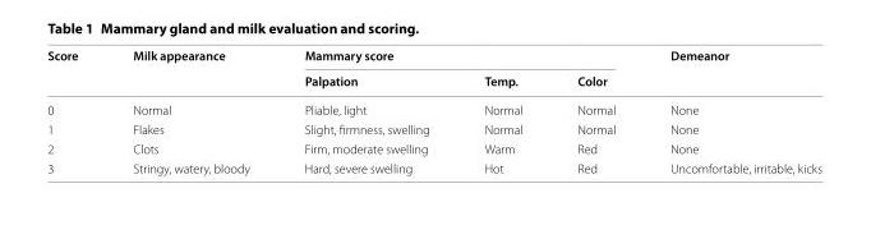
<table><thead><tr><td rowspan="2">Score</td><td rowspan="2">Milk appearance</td><td colspan="3">Mammary score</td><td rowspan="2">Demeanor</td></tr><tr><td>Palpation</td><td>Temp.</td><td>Color</td></tr></thead><tbody><tr><td>0</td><td>Normal</td><td>Pliable, light</td><td>Normal</td><td>Normal</td><td>None</td></tr><tr><td>1</td><td>Flakes</td><td>Slight, firmness, swelling</td><td>Normal</td><td>Normal</td><td>None</td></tr><tr><td>2</td><td>Clots</td><td>Firm, moderate swelling</td><td>Warm</td><td>Red</td><td>None</td></tr><tr><td>3</td><td>Stringy, watery, bloody</td><td>Hard, severe swelling</td><td>Hot</td><td>Red</td><td>Uncomfortable, irritable, kicks</td></tr></tbody></table>